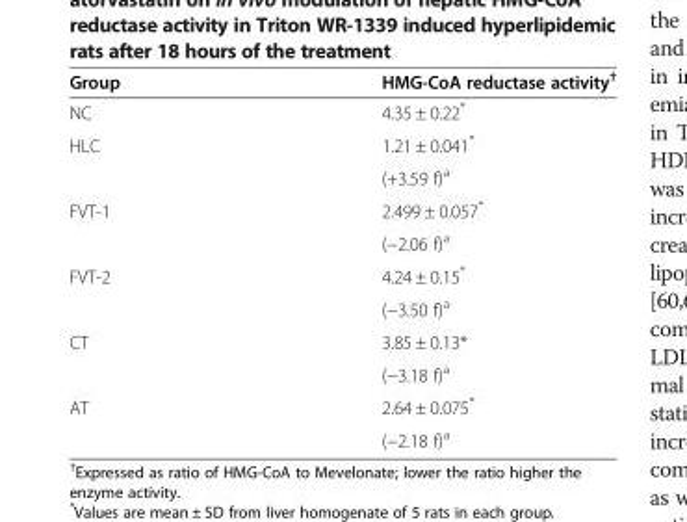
<table><thead><tr><td>Group</td><td>HMG-CoA reductase activity<sup>†</sup></td></tr></thead><tbody><tr><td>NC</td><td>4.35 ± 0.22*</td></tr><tr><td rowspan="2">HLC</td><td>1.21 ± 0.041*</td></tr><tr><td>(+3.59 f)<sup>a</sup></td></tr><tr><td rowspan="2">FVT-1</td><td>2.499 ± 0.057*</td></tr><tr><td>(−2.06 f)<sup>a</sup></td></tr><tr><td rowspan="2">FVT-2</td><td>4.24 ± 0.15*</td></tr><tr><td>(−3.50 f)<sup>a</sup></td></tr><tr><td rowspan="2">CT</td><td>3.85 ± 0.13*</td></tr><tr><td>(−3.18 f)<sup>a</sup></td></tr><tr><td rowspan="2">AT</td><td>2.64 ± 0.075*</td></tr><tr><td>(−2.18 f)<sup>a</sup></td></tr></tbody></table>